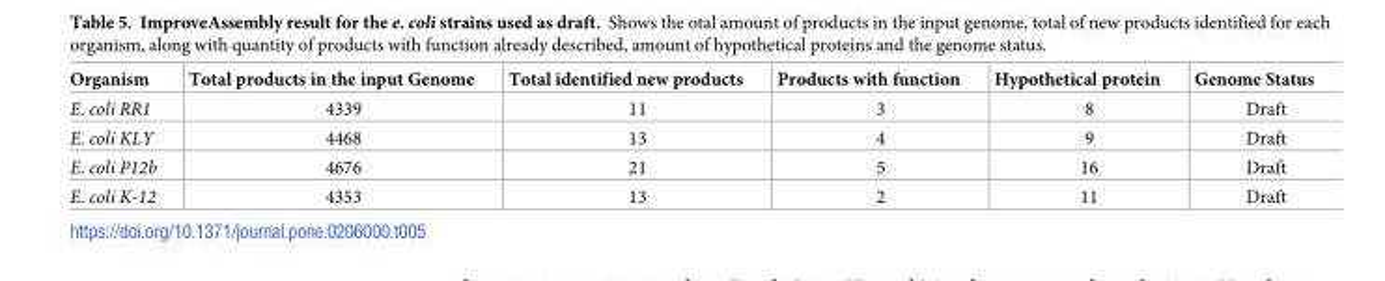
<table><thead><tr><td>Organism</td><td>Total products in the input Genome</td><td>Total identified new products</td><td>Products with function</td><td>Hypothetical protein</td><td>Genome Status</td></tr></thead><tbody><tr><td>E. coli RR1</td><td>4339</td><td>11</td><td>3</td><td>8</td><td>Draft</td></tr><tr><td>E. coli KLY</td><td>4468</td><td>13</td><td>4</td><td>9</td><td>Draft</td></tr><tr><td>E. coli P12b</td><td>4676</td><td>21</td><td>5</td><td>16</td><td>Draft</td></tr><tr><td>E. coli K-12</td><td>4353</td><td>13</td><td>2</td><td>11</td><td>Draft</td></tr></tbody></table>